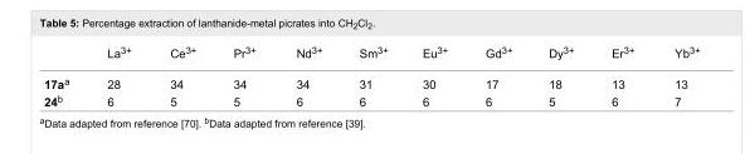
<table><thead><tr><td></td><td>La<sup>3+</sup></td><td>Ce<sup>3+</sup></td><td>Pr<sup>3+</sup></td><td>Nd<sup>3+</sup></td><td>Sm<sup>3+</sup></td><td>Eu<sup>3+</sup></td><td>Gd<sup>3+</sup></td><td>Dy<sup>3+</sup></td><td>Er<sup>3+</sup></td><td>Yb<sup>3+</sup></td></tr></thead><tbody><tr><td>17a<sup>a</sup></td><td>28</td><td>34</td><td>34</td><td>34</td><td>31</td><td>30</td><td>17</td><td>18</td><td>13</td><td>13</td></tr><tr><td>24<sup>b</sup></td><td>6</td><td>5</td><td>5</td><td>6</td><td>6</td><td>6</td><td>6</td><td>5</td><td>6</td><td>7</td></tr></tbody></table>